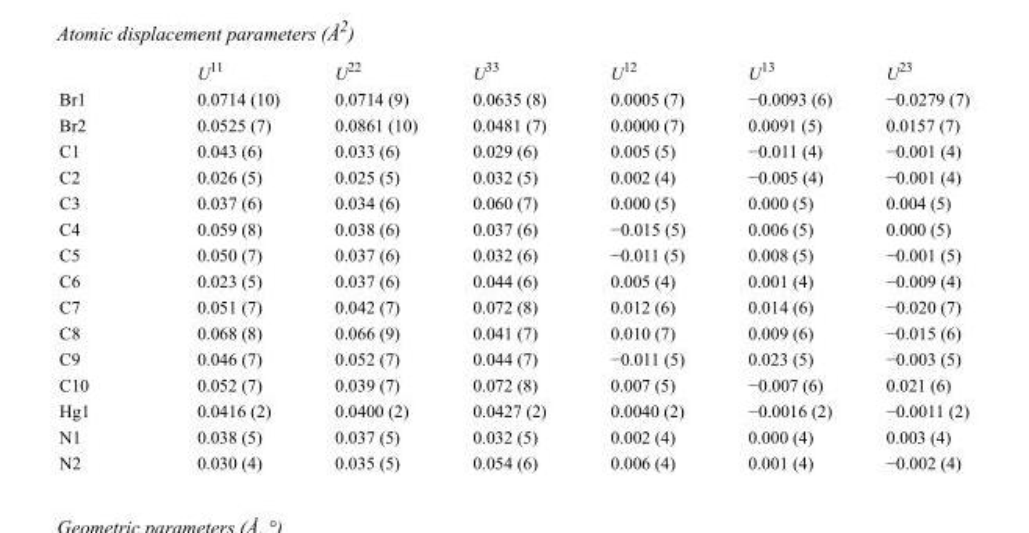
<table><thead><tr><td></td><td>U<sup>11</sup></td><td>U<sup>22</sup></td><td>U<sup>33</sup></td><td>U<sup>12</sup></td><td>U<sup>13</sup></td><td>U<sup>23</sup></td></tr></thead><tbody><tr><td>Br1</td><td>0.0714 (10)</td><td>0.0714 (9)</td><td>0.0635 (8)</td><td>0.0005 (7)</td><td>−0.0093 (6)</td><td>−0.0279 (7)</td></tr><tr><td>Br2</td><td>0.0525 (7)</td><td>0.0861 (10)</td><td>0.0481 (7)</td><td>0.0000 (7)</td><td>0.0091 (5)</td><td>0.0157 (7)</td></tr><tr><td>C1</td><td>0.043 (6)</td><td>0.033 (6)</td><td>0.029 (6)</td><td>0.005 (5)</td><td>−0.011 (4)</td><td>−0.001 (4)</td></tr><tr><td>C2</td><td>0.026 (5)</td><td>0.025 (5)</td><td>0.032 (5)</td><td>0.002 (4)</td><td>−0.005 (4)</td><td>−0.001 (4)</td></tr><tr><td>C3</td><td>0.037 (6)</td><td>0.034 (6)</td><td>0.060 (7)</td><td>0.000 (5)</td><td>0.000 (5)</td><td>0.004 (5)</td></tr><tr><td>C4</td><td>0.059 (8)</td><td>0.038 (6)</td><td>0.037 (6)</td><td>−0.015 (5)</td><td>0.006 (5)</td><td>0.000 (5)</td></tr><tr><td>C5</td><td>0.050 (7)</td><td>0.037 (6)</td><td>0.032 (6)</td><td>−0.011 (5)</td><td>0.008 (5)</td><td>−0.001 (5)</td></tr><tr><td>C6</td><td>0.023 (5)</td><td>0.037 (6)</td><td>0.044 (6)</td><td>0.005 (4)</td><td>0.001 (4)</td><td>−0.009 (4)</td></tr><tr><td>C7</td><td>0.051 (7)</td><td>0.042 (7)</td><td>0.072 (8)</td><td>0.012 (6)</td><td>0.014 (6)</td><td>−0.020 (7)</td></tr><tr><td>C8</td><td>0.068 (8)</td><td>0.066 (9)</td><td>0.041 (7)</td><td>0.010 (7)</td><td>0.009 (6)</td><td>−0.015 (6)</td></tr><tr><td>C9</td><td>0.046 (7)</td><td>0.052 (7)</td><td>0.044 (7)</td><td>−0.011 (5)</td><td>0.023 (5)</td><td>−0.003 (5)</td></tr><tr><td>C10</td><td>0.052 (7)</td><td>0.039 (7)</td><td>0.072 (8)</td><td>0.007 (5)</td><td>−0.007 (6)</td><td>0.021 (6)</td></tr><tr><td>Hg1</td><td>0.0416 (2)</td><td>0.0400 (2)</td><td>0.0427 (2)</td><td>0.0040 (2)</td><td>−0.0016 (2)</td><td>−0.0011 (2)</td></tr><tr><td>N1</td><td>0.038 (5)</td><td>0.037 (5)</td><td>0.032 (5)</td><td>0.002 (4)</td><td>0.000 (4)</td><td>0.003 (4)</td></tr><tr><td>N2</td><td>0.030 (4)</td><td>0.035 (5)</td><td>0.054 (6)</td><td>0.006 (4)</td><td>0.001 (4)</td><td>−0.002 (4)</td></tr></tbody></table>